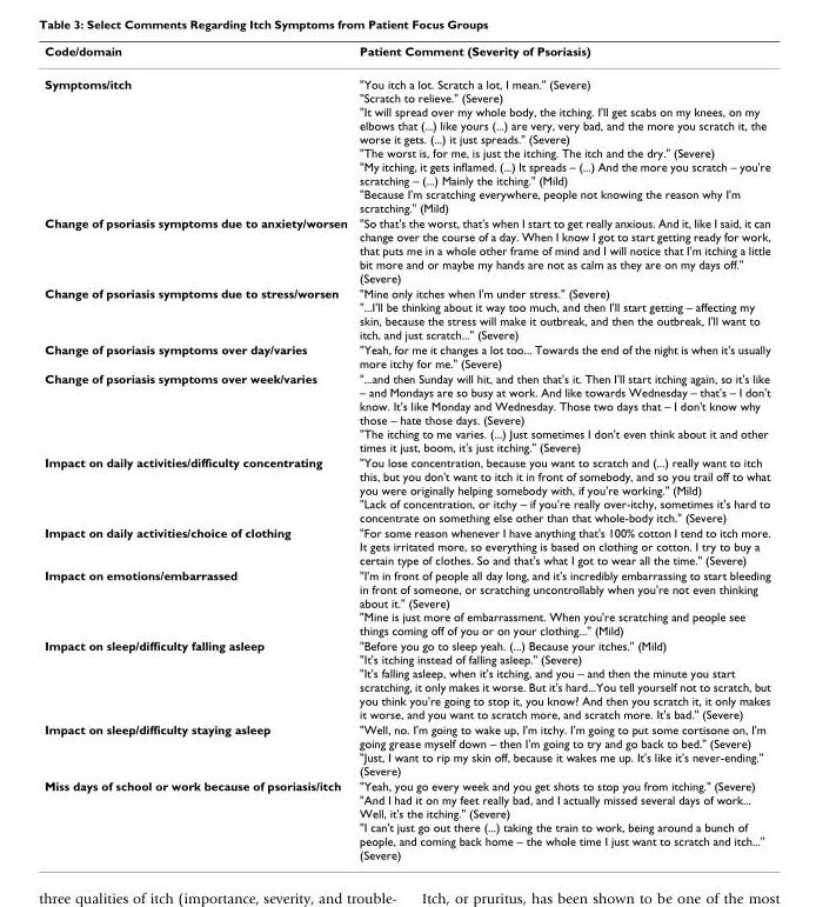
<table><thead><tr><td>Code/domain</td><td>Patient Comment (Severity of Psoriasis)</td></tr></thead><tbody><tr><td>Symptoms/itch</td><td>&quot;You itch a lot. Scratch a lot, I mean.&quot; (Severe) &quot;Scratch to relieve.&quot; (Severe) &quot;It will spread over my whole body, the itching. I&#x27;ll get scabs on my knees, on my elbows that (...) like yours (...) are very, very bad, and the more you scratch it, the worse it gets. (...) it just spreads.&quot; (Severe) &quot;The worst is, for me, is just the itching. The itch and the dry.&quot; (Severe) &quot;My itching, it gets inflamed. (...) It spreads – (...) And the more you scratch – you&#x27;re scratching – (...) Mainly the itching.&quot; (Mild) &quot;Because I&#x27;m scratching everywhere, people not knowing the reason why I&#x27;m scratching.&quot; (Mild)</td></tr><tr><td>Change of psoriasis symptoms due to anxiety/worsen</td><td>&quot;So that&#x27;s the worst, that&#x27;s when I start to get really anxious. And it, like I said, it can change over the course of a day. When I know I got to start getting ready for work, that puts me in a whole other frame of mind and I will notice that I&#x27;m itching a little bit more and or maybe my hands are not as calm as they are on my days off.&quot; (Severe)</td></tr><tr><td>Change of psoriasis symptoms due to stress/worsen</td><td>&quot;Mine only itches when I&#x27;m under stress.&quot; (Severe) &quot;...I&#x27;ll be thinking about it way too much, and then I&#x27;ll start getting – affecting my skin, because the stress will make it outbreak, and then the outbreak, I&#x27;ll want to itch, and just scratch...&quot; (Severe)</td></tr><tr><td>Change of psoriasis symptoms over day/varies</td><td>&quot;Yeah, for me it changes a lot too... Towards the end of the night is when it&#x27;s usually more itchy for me.&quot; (Severe)</td></tr><tr><td>Change of psoriasis symptoms over week/varies</td><td>&quot;...and then Sunday will hit, and then that&#x27;s it. Then I&#x27;ll start itching again, so it&#x27;s like – and Mondays are so busy at work. And like towards Wednesday – that&#x27;s – I don&#x27;t know. It&#x27;s like Monday and Wednesday. Those two days that – I don&#x27;t know why those – hate those days. (Severe) &quot;The itching to me varies. (...) Just sometimes I don&#x27;t even think about it and other times it just, boom, it&#x27;s just itching.&quot; (Severe)</td></tr><tr><td>Impact on daily activities/difficulty concentrating</td><td>&quot;You lose concentration, because you want to scratch and (...) really want to itch this, but you don&#x27;t want to itch it in front of somebody, and so you trail off to what you were originally helping somebody with, if you&#x27;re working.&quot; (Mild) &quot;Lack of concentration, or itchy – if you&#x27;re really over-itchy, sometimes it&#x27;s hard to concentrate on something else other than that whole-body itch.&quot; (Severe)</td></tr><tr><td>Impact on daily activities/choice of clothing</td><td>&quot;For some reason whenever I have anything that&#x27;s 100% cotton I tend to itch more. It gets irritated more, so everything is based on clothing or cotton. I try to buy a certain type of clothes. So and that&#x27;s what I got to wear all the time.&quot; (Severe)</td></tr><tr><td>Impact on emotions/embarrassed</td><td>&quot;I&#x27;m in front of people all day long, and it&#x27;s incredibly embarrassing to start bleeding in front of someone, or scratching uncontrollably when you&#x27;re not even thinking about it.&quot; (Severe) &quot;Mine is just more of embarrassment. When you&#x27;re scratching and people see things coming off of you or on your clothing...&quot; (Mild)</td></tr><tr><td>Impact on sleep/difficulty falling asleep</td><td>&quot;Before you go to sleep yeah. (...) Because your itches.&quot; (Mild) &quot;It&#x27;s itching instead of falling asleep.&quot; (Severe) &quot;It&#x27;s falling asleep, when it&#x27;s itching, and you – and then the minute you start scratching, it only makes it worse. But it&#x27;s hard...You tell yourself not to scratch, but you think you&#x27;re going to stop it, you know? And then you scratch it, it only makes it worse, and you want to scratch more, and scratch more. It&#x27;s bad.&quot; (Severe)</td></tr><tr><td>Impact on sleep/difficulty staying asleep</td><td>&quot;Well, no. I&#x27;m going to wake up, I&#x27;m itchy. I&#x27;m going to put some cortisone on, I&#x27;m going grease myself down – then I&#x27;m going to try and go back to bed.&quot; (Severe) &quot;Just, I want to rip my skin off, because it wakes me up. It&#x27;s like it&#x27;s never-ending.&quot; (Severe)</td></tr><tr><td>Miss days of school or work because of psoriasis/itch</td><td>&quot;Yeah, you go every week and you get shots to stop you from itching.&quot; (Severe) &quot;And I had it on my feet really bad, and I actually missed several days of work... Well, it&#x27;s the itching.&quot; (Severe) &quot;I can&#x27;t just go out there (...) taking the train to work, being around a bunch of people, and coming back home – the whole time I just want to scratch and itch...&quot; (Severe)</td></tr></tbody></table>